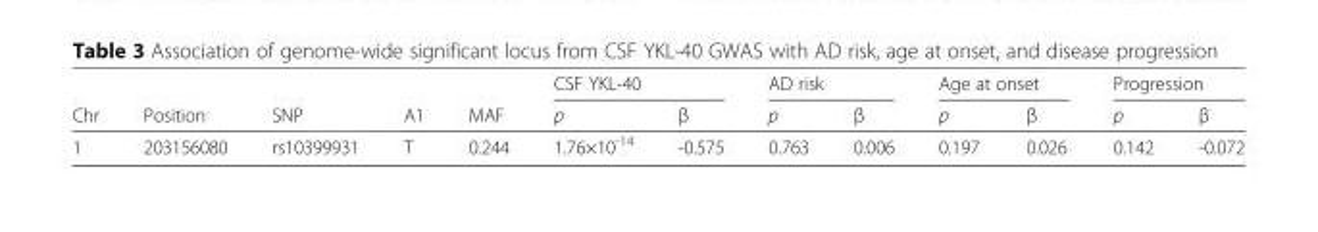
<table><thead><tr><td rowspan="2">Chr</td><td rowspan="2">Position</td><td rowspan="2">SNP</td><td rowspan="2">A1</td><td rowspan="2">MAF</td><td colspan="2">CSF YKL-40</td><td colspan="2">AD risk</td><td colspan="2">Age at onset</td><td colspan="2">Progression</td></tr><tr><td>p</td><td>β</td><td>p</td><td>β</td><td>p</td><td>β</td><td>p</td><td>β</td></tr></thead><tbody><tr><td>1</td><td>203156080</td><td>rs10399931</td><td>T</td><td>0.244</td><td>1.76×10<sup>-14</sup></td><td>-0.575</td><td>0.763</td><td>0.006</td><td>0.197</td><td>0.026</td><td>0.142</td><td>-0.072</td></tr></tbody></table>